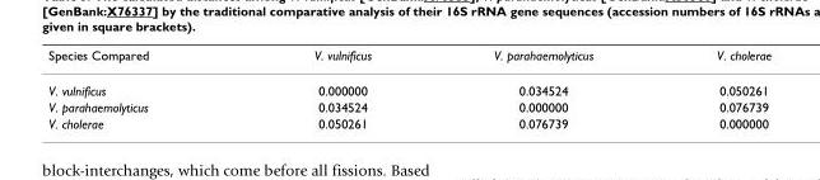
<table><thead><tr><td>Species Compared</td><td>V. vulnificus</td><td>V. parahaemolyticus</td><td>V. cholerae</td></tr></thead><tbody><tr><td>V. vulnificus</td><td>0.000000</td><td>0.034524</td><td>0.050261</td></tr><tr><td>V. parahaemolyticus</td><td>0.034524</td><td>0.000000</td><td>0.076739</td></tr><tr><td>V. cholerae</td><td>0.050261</td><td>0.076739</td><td>0.000000</td></tr></tbody></table>